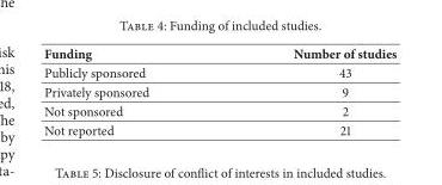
<table><thead><tr><td>Funding</td><td>Number of studies</td></tr></thead><tbody><tr><td>Publicly sponsored</td><td>43</td></tr><tr><td>Privately sponsored</td><td>9</td></tr><tr><td>Not sponsored</td><td>2</td></tr><tr><td>Not reported</td><td>21</td></tr></tbody></table>